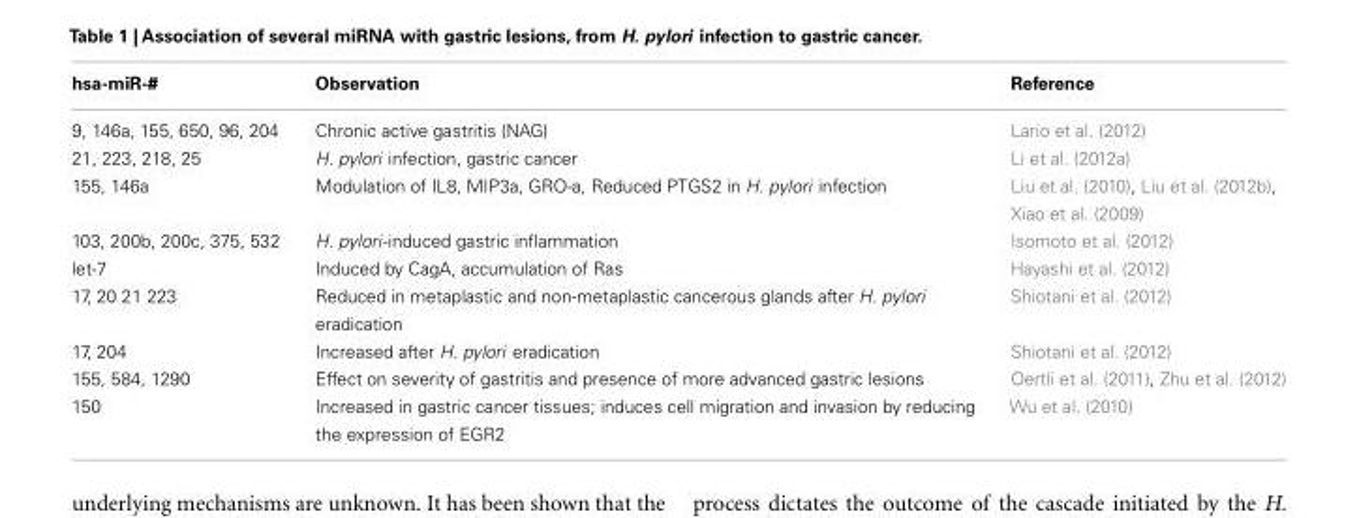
<table><thead><tr><td>hsa-miR-#</td><td>Observation</td><td>Reference</td></tr></thead><tbody><tr><td>9, 146a, 155, 650, 96, 204</td><td>Chronic active gastritis (NAG)</td><td>Lario et al. (2012)</td></tr><tr><td>21, 223, 218, 25</td><td>H. pylori infection, gastric cancer</td><td>Li et al. (2012a)</td></tr><tr><td>155, 146a</td><td>Modulation of IL8, MIP3a, GRO-a, Reduced PTGS2 in H. pylori infection</td><td>Liu et al. (2010), Liu et al. (2012b), Xiao et al. (2009)</td></tr><tr><td>103, 200b, 200c, 375, 532</td><td>H. pylori-induced gastric inflammation</td><td>Isomoto et al. (2012)</td></tr><tr><td>let-7</td><td>Induced by CagA, accumulation of Ras</td><td>Hayashi et al. (2012)</td></tr><tr><td>17, 20 21 223</td><td>Reduced in metaplastic and non-metaplastic cancerous glands after H. pylori eradication</td><td>Shiotani et al. (2012)</td></tr><tr><td>17, 204</td><td>Increased after H. pylori eradication</td><td>Shiotani et al. (2012)</td></tr><tr><td>155, 584, 1290</td><td>Effect on severity of gastritis and presence of more advanced gastric lesions</td><td>Oertli et al. (2011), Zhu et al. (2012)</td></tr><tr><td>150</td><td>Increased in gastric cancer tissues; induces cell migration and invasion by reducing the expression of EGR2</td><td>Wu et al. (2010)</td></tr></tbody></table>